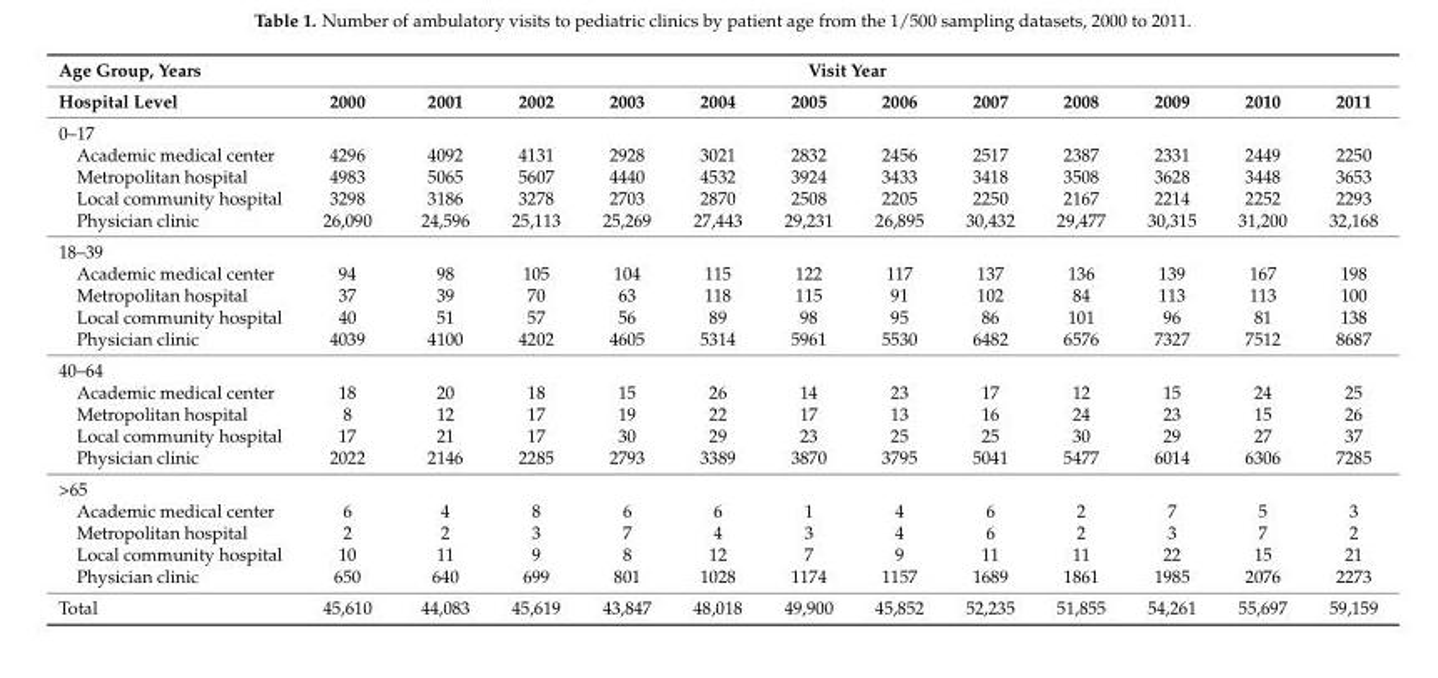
<table><thead><tr><td rowspan="2">Age Group, Years Hospital Level</td><td colspan="12">Visit Year</td></tr><tr><td>2000</td><td>2001</td><td>2002</td><td>2003</td><td>2004</td><td>2005</td><td>2006</td><td>2007</td><td>2008</td><td>2009</td><td>2010</td><td>2011</td></tr></thead><tbody><tr><td colspan="13">0–17</td></tr><tr><td>Academic medical center</td><td>4296</td><td>4092</td><td>4131</td><td>2928</td><td>3021</td><td>2832</td><td>2456</td><td>2517</td><td>2387</td><td>2331</td><td>2449</td><td>2250</td></tr><tr><td>Metropolitan hospital</td><td>4983</td><td>5065</td><td>5607</td><td>4440</td><td>4532</td><td>3924</td><td>3433</td><td>3418</td><td>3508</td><td>3628</td><td>3448</td><td>3653</td></tr><tr><td>Local community hospital</td><td>3298</td><td>3186</td><td>3278</td><td>2703</td><td>2870</td><td>2508</td><td>2205</td><td>2250</td><td>2167</td><td>2214</td><td>2252</td><td>2293</td></tr><tr><td>Physician clinic</td><td>26,090</td><td>24,596</td><td>25,113</td><td>25,269</td><td>27,443</td><td>29,231</td><td>26,895</td><td>30,432</td><td>29,477</td><td>30,315</td><td>31,200</td><td>32,168</td></tr><tr><td colspan="13">18–39</td></tr><tr><td>Academic medical center</td><td>94</td><td>98</td><td>105</td><td>104</td><td>115</td><td>122</td><td>117</td><td>137</td><td>136</td><td>139</td><td>167</td><td>198</td></tr><tr><td>Metropolitan hospital</td><td>37</td><td>39</td><td>70</td><td>63</td><td>118</td><td>115</td><td>91</td><td>102</td><td>84</td><td>113</td><td>113</td><td>100</td></tr><tr><td>Local community hospital</td><td>40</td><td>51</td><td>57</td><td>56</td><td>89</td><td>98</td><td>95</td><td>86</td><td>101</td><td>96</td><td>81</td><td>138</td></tr><tr><td>Physician clinic</td><td>4039</td><td>4100</td><td>4202</td><td>4605</td><td>5314</td><td>5961</td><td>5530</td><td>6482</td><td>6576</td><td>7327</td><td>7512</td><td>8687</td></tr><tr><td colspan="13">40–64</td></tr><tr><td>Academic medical center</td><td>18</td><td>20</td><td>18</td><td>15</td><td>26</td><td>14</td><td>23</td><td>17</td><td>12</td><td>15</td><td>24</td><td>25</td></tr><tr><td>Metropolitan hospital</td><td>8</td><td>12</td><td>17</td><td>19</td><td>22</td><td>17</td><td>13</td><td>16</td><td>24</td><td>23</td><td>15</td><td>26</td></tr><tr><td>Local community hospital</td><td>17</td><td>21</td><td>17</td><td>30</td><td>29</td><td>23</td><td>25</td><td>25</td><td>30</td><td>29</td><td>27</td><td>37</td></tr><tr><td>Physician clinic</td><td>2022</td><td>2146</td><td>2285</td><td>2793</td><td>3389</td><td>3870</td><td>3795</td><td>5041</td><td>5477</td><td>6014</td><td>6306</td><td>7285</td></tr><tr><td colspan="13">&gt;65</td></tr><tr><td>Academic medical center</td><td>6</td><td>4</td><td>8</td><td>6</td><td>6</td><td>1</td><td>4</td><td>6</td><td>2</td><td>7</td><td>5</td><td>3</td></tr><tr><td>Metropolitan hospital</td><td>2</td><td>2</td><td>3</td><td>7</td><td>4</td><td>3</td><td>4</td><td>6</td><td>2</td><td>3</td><td>7</td><td>2</td></tr><tr><td>Local community hospital</td><td>10</td><td>11</td><td>9</td><td>8</td><td>12</td><td>7</td><td>9</td><td>11</td><td>11</td><td>22</td><td>15</td><td>21</td></tr><tr><td>Physician clinic</td><td>650</td><td>640</td><td>699</td><td>801</td><td>1028</td><td>1174</td><td>1157</td><td>1689</td><td>1861</td><td>1985</td><td>2076</td><td>2273</td></tr><tr><td>Total</td><td>45,610</td><td>44,083</td><td>45,619</td><td>43,847</td><td>48,018</td><td>49,900</td><td>45,852</td><td>52,235</td><td>51,855</td><td>54,261</td><td>55,697</td><td>59,159</td></tr></tbody></table>